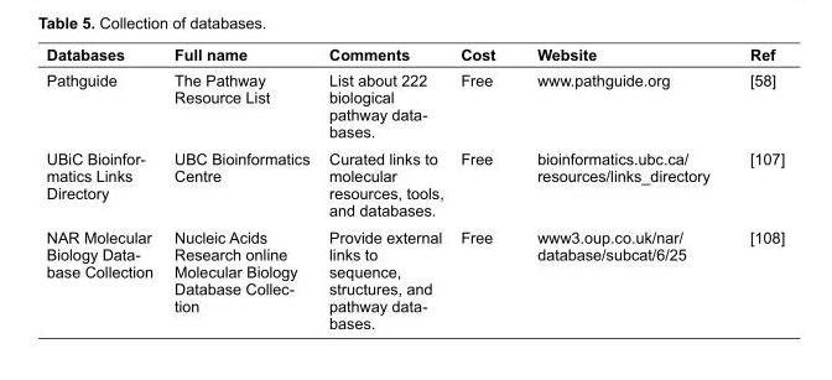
<table><thead><tr><td>Databases</td><td>Full name</td><td>Comments</td><td>Cost</td><td>Website</td><td>Ref</td></tr></thead><tbody><tr><td>Pathguide</td><td>The Pathway Resource List</td><td>List about 222 biological pathway data- bases.</td><td>Free</td><td>www.pathguide.org</td><td>[58]</td></tr><tr><td>UBiC Bioinfor- matics Links Directory</td><td>UBC Bioinformatics Centre</td><td>Curated links to molecular resources, tools, and databases.</td><td>Free</td><td>bioinformatics.ubc.ca/ resources/links_directory</td><td>[107]</td></tr><tr><td>NAR Molecular Biology Data- base Collection</td><td>Nucleic Acids Research online Molecular Biology Database Collec- tion</td><td>Provide external links to sequence, structures, and pathway data- bases.</td><td>Free</td><td>www3.oup.co.uk/nar/ database/subcat/6/25</td><td>[108]</td></tr></tbody></table>